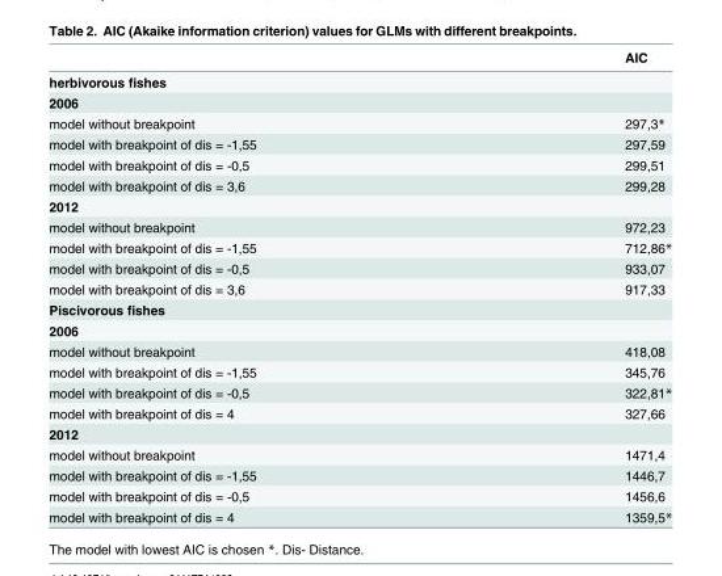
<table><thead><tr><td></td><td>AIC</td></tr></thead><tbody><tr><td colspan="2">herbivorous fishes</td></tr><tr><td colspan="2">2006</td></tr><tr><td>model without breakpoint</td><td>297,3*</td></tr><tr><td>model with breakpoint of dis = -1,55</td><td>297,59</td></tr><tr><td>model with breakpoint of dis = -0,5</td><td>299,51</td></tr><tr><td>model with breakpoint of dis = 3,6</td><td>299,28</td></tr><tr><td colspan="2">2012</td></tr><tr><td>model without breakpoint</td><td>972,23</td></tr><tr><td>model with breakpoint of dis = -1,55</td><td>712,86*</td></tr><tr><td>model with breakpoint of dis = -0,5</td><td>933,07</td></tr><tr><td>model with breakpoint of dis = 3,6</td><td>917,33</td></tr><tr><td colspan="2">Piscivorous fishes</td></tr><tr><td colspan="2">2006</td></tr><tr><td>model without breakpoint</td><td>418,08</td></tr><tr><td>model with breakpoint of dis = -1,55</td><td>345,76</td></tr><tr><td>model with breakpoint of dis = -0,5</td><td>322,81*</td></tr><tr><td>model with breakpoint of dis = 4</td><td>327,66</td></tr><tr><td colspan="2">2012</td></tr><tr><td>model without breakpoint</td><td>1471,4</td></tr><tr><td>model with breakpoint of dis = -1,55</td><td>1446,7</td></tr><tr><td>model with breakpoint of dis = -0,5</td><td>1456,6</td></tr><tr><td>model with breakpoint of dis = 4</td><td>1359,5*</td></tr></tbody></table>